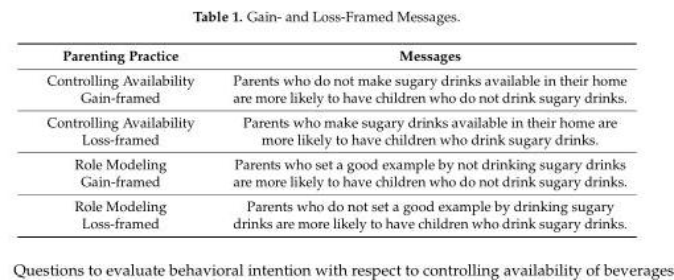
<table><thead><tr><td>Parenting Practice</td><td>Messages</td></tr></thead><tbody><tr><td>Controlling Availability Gain-framed</td><td>Parents who do not make sugary drinks available in their home are more likely to have children who do not drink sugary drinks.</td></tr><tr><td>Controlling Availability Loss-framed</td><td>Parents who make sugary drinks available in their home are more likely to have children who drink sugary drinks.</td></tr><tr><td>Role Modeling Gain-framed</td><td>Parents who set a good example by not drinking sugary drinks are more likely to have children who do not drink sugary drinks.</td></tr><tr><td>Role Modeling Loss-framed</td><td>Parents who do not set a good example by drinking sugary drinks are more likely to have children who drink sugary drinks.</td></tr></tbody></table>